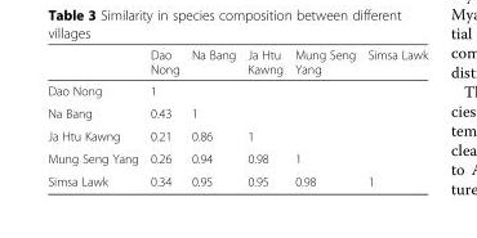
<table><thead><tr><td></td><td>Dao Nong</td><td>Na Bang</td><td>Ja Htu Kawng</td><td>Mung Seng Yang</td><td>Simsa Lawk</td></tr></thead><tbody><tr><td>Dao Nong</td><td>1</td><td></td><td></td><td></td><td></td></tr><tr><td>Na Bang</td><td>0.43</td><td>1</td><td></td><td></td><td></td></tr><tr><td>Ja Htu Kawng</td><td>0.21</td><td>0.86</td><td>1</td><td></td><td></td></tr><tr><td>Mung Seng Yang</td><td>0.26</td><td>0.94</td><td>0.98</td><td>1</td><td></td></tr><tr><td>Simsa Lawk</td><td>0.34</td><td>0.95</td><td>0.95</td><td>0.98</td><td>1</td></tr></tbody></table>